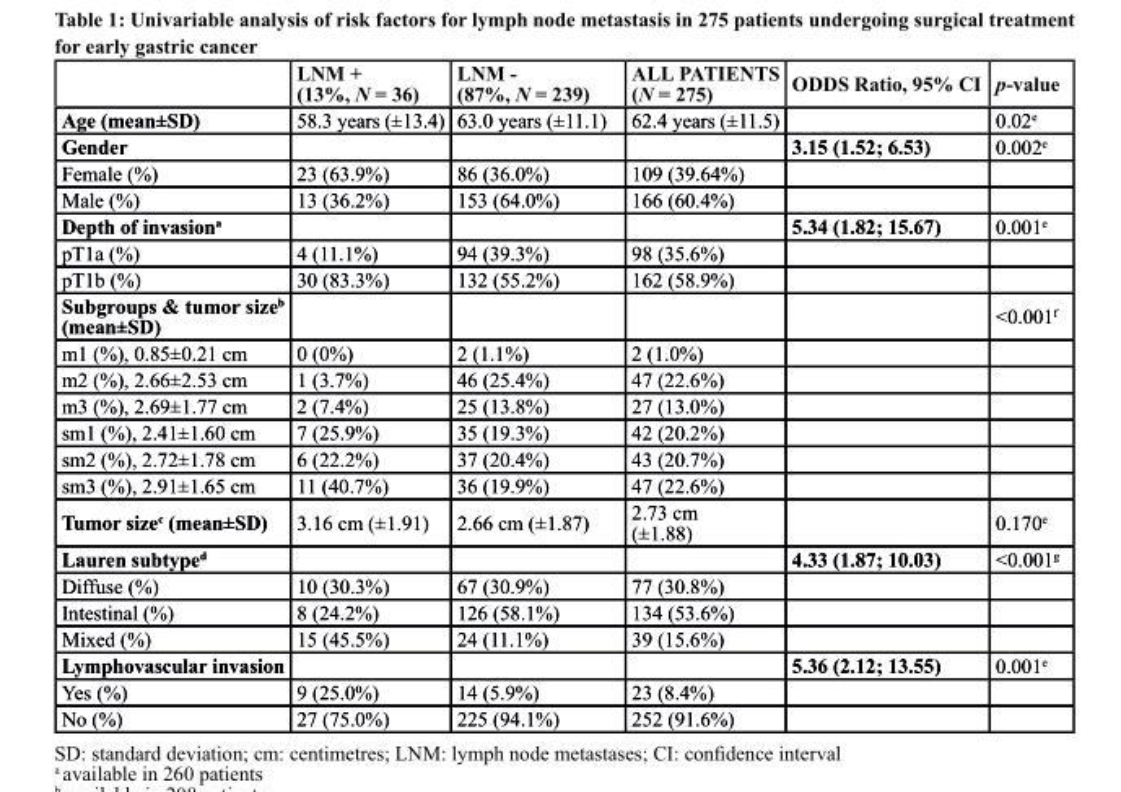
<table><thead><tr><td></td><td>lnM + (13%, N = 36)</td><td>lnM - (87%, N = 239)</td><td>All PAtIents (N = 275)</td><td>odds ratio, 95% cI</td><td>p-value</td></tr></thead><tbody><tr><td>Age (mean±sd)</td><td>58.3 years (±13.4)</td><td>63.0 years (±11.1)</td><td>62.4 years (±11.5)</td><td></td><td>0.02<sup>e</sup></td></tr><tr><td>Gender</td><td></td><td></td><td></td><td>3.15 (1.52; 6.53)</td><td>0.002<sup>e</sup></td></tr><tr><td>Female (%)</td><td>23 (63.9%)</td><td>86 (36.0%)</td><td>109 (39.64%)</td><td></td><td></td></tr><tr><td>Male (%)</td><td>13 (36.2%)</td><td>153 (64.0%)</td><td>166 (60.4%)</td><td></td><td></td></tr><tr><td>depth of invasion<sup>a</sup></td><td></td><td></td><td></td><td>5.34 (1.82; 15.67)</td><td>0.001<sup>e</sup></td></tr><tr><td>pT1a (%)</td><td>4 (11.1%)</td><td>94 (39.3%)</td><td>98 (35.6%)</td><td></td><td></td></tr><tr><td>pT1b (%)</td><td>30 (83.3%)</td><td>132 (55.2%)</td><td>162 (58.9%)</td><td></td><td></td></tr><tr><td>subgroups &amp; tumor size<sup>b</sup> (mean±sd)</td><td></td><td></td><td></td><td></td><td>&lt;0.001<sup>f</sup></td></tr><tr><td>m1 (%), 0.85±0.21 cm</td><td>0 (0%)</td><td>2 (1.1%)</td><td>2 (1.0%)</td><td></td><td></td></tr><tr><td>m2 (%), 2.66±2.53 cm</td><td>1 (3.7%)</td><td>46 (25.4%)</td><td>47 (22.6%)</td><td></td><td></td></tr><tr><td>m3 (%), 2.69±1.77 cm</td><td>2 (7.4%)</td><td>25 (13.8%)</td><td>27 (13.0%)</td><td></td><td></td></tr><tr><td>sm1 (%), 2.41±1.60 cm</td><td>7 (25.9%)</td><td>35 (19.3%)</td><td>42 (20.2%)</td><td></td><td></td></tr><tr><td>sm2 (%), 2.72±1.78 cm</td><td>6 (22.2%)</td><td>37 (20.4%)</td><td>43 (20.7%)</td><td></td><td></td></tr><tr><td>sm3 (%), 2.91±1.65 cm</td><td>11 (40.7%)</td><td>36 (19.9%)</td><td>47 (22.6%)</td><td></td><td></td></tr><tr><td>tumor size<sup>c</sup> (mean±sd)</td><td>3.16 cm (±1.91)</td><td>2.66 cm (±1.87)</td><td>2.73 cm (±1.88)</td><td></td><td>0.170<sup>e</sup></td></tr><tr><td>lauren subtype<sup>d</sup></td><td></td><td></td><td></td><td>4.33 (1.87; 10.03)</td><td>&lt;0.001<sup>g</sup></td></tr><tr><td>Diffuse (%)</td><td>10 (30.3%)</td><td>67 (30.9%)</td><td>77 (30.8%)</td><td></td><td></td></tr><tr><td>Intestinal (%)</td><td>8 (24.2%)</td><td>126 (58.1%)</td><td>134 (53.6%)</td><td></td><td></td></tr><tr><td>Mixed (%)</td><td>15 (45.5%)</td><td>24 (11.1%)</td><td>39 (15.6%)</td><td></td><td></td></tr><tr><td>lymphovascular invasion</td><td></td><td></td><td></td><td>5.36 (2.12; 13.55)</td><td>0.001<sup>e</sup></td></tr><tr><td>Yes (%)</td><td>9 (25.0%)</td><td>14 (5.9%)</td><td>23 (8.4%)</td><td></td><td></td></tr><tr><td>No (%)</td><td>27 (75.0%)</td><td>225 (94.1%)</td><td>252 (91.6%)</td><td></td><td></td></tr></tbody></table>